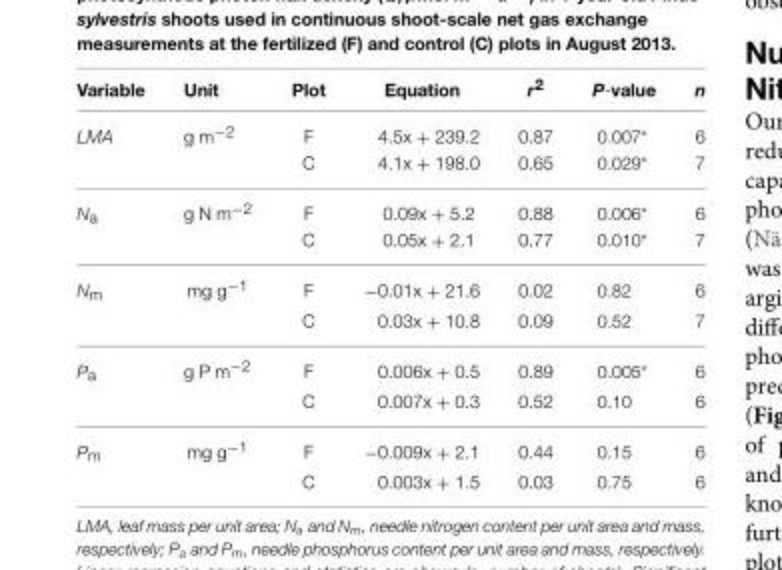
<table><thead><tr><td>Variable</td><td>Unit</td><td>Plot</td><td>Equation</td><td>r<sup>2</sup></td><td>P-value</td><td>n</td></tr></thead><tbody><tr><td rowspan="2">LMA</td><td>g m<sup>−2</sup></td><td>F</td><td>4.5x + 239.2</td><td>0.87</td><td>0.007*</td><td>6</td></tr><tr><td></td><td>C</td><td>4.1x + 198.0</td><td>0.65</td><td>0.029*</td><td>7</td></tr><tr><td rowspan="2">N<sub>a</sub></td><td>g N m<sup>−2</sup></td><td>F</td><td>0.09x + 5.2</td><td>0.88</td><td>0.006*</td><td>6</td></tr><tr><td></td><td>C</td><td>0.05x + 2.1</td><td>0.77</td><td>0.010*</td><td>7</td></tr><tr><td rowspan="2">N<sub>m</sub></td><td>mg g<sup>−1</sup></td><td>F</td><td>−0.01x + 21.6</td><td>0.02</td><td>0.82</td><td>6</td></tr><tr><td></td><td>C</td><td>0.03x + 10.8</td><td>0.09</td><td>0.52</td><td>7</td></tr><tr><td rowspan="2">P<sub>a</sub></td><td>g P m<sup>−2</sup></td><td>F</td><td>0.006x + 0.5</td><td>0.89</td><td>0.005*</td><td>6</td></tr><tr><td></td><td>C</td><td>0.007x + 0.3</td><td>0.52</td><td>0.10</td><td>6</td></tr><tr><td rowspan="2">P<sub>m</sub></td><td>mg g<sup>−1</sup></td><td>F</td><td>−0.009x + 2.1</td><td>0.44</td><td>0.15</td><td>6</td></tr><tr><td></td><td>C</td><td>0.003x + 1.5</td><td>0.03</td><td>0.75</td><td>6</td></tr></tbody></table>